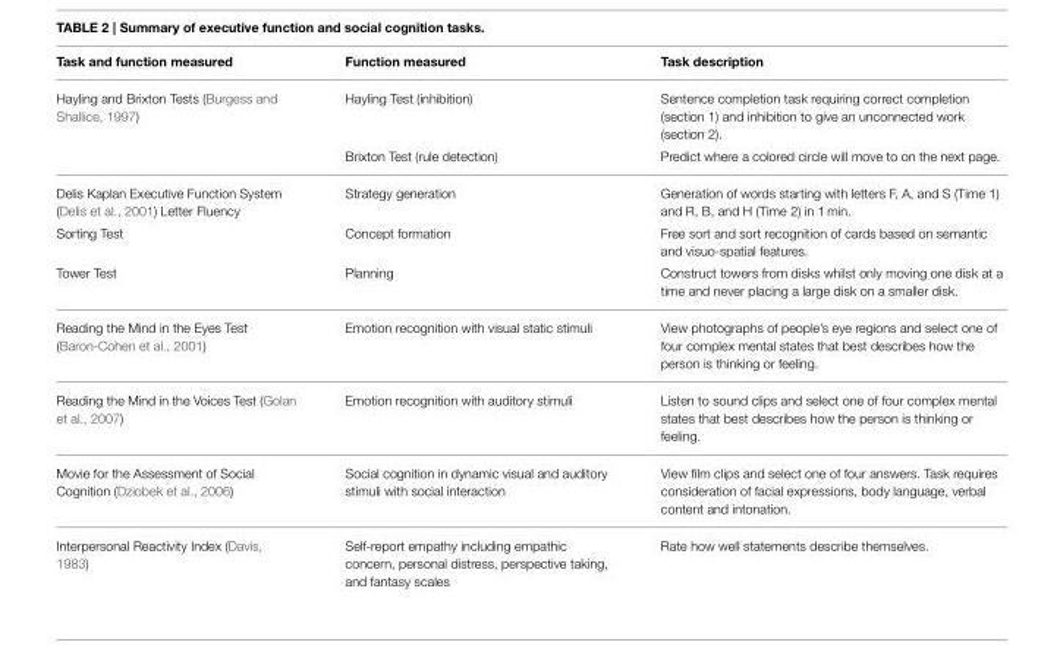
<table><thead><tr><td>Task and function measured</td><td>Function measured</td><td>Task description</td></tr></thead><tbody><tr><td rowspan="2">Hayling and Brixton Tests (Burgess and Shallice, 1997)</td><td>Hayling Test (inhibition)</td><td>Sentence completion task requiring correct completion (section 1) and inhibition to give an unconnected work (section 2).</td></tr><tr><td>Brixton Test (rule detection)</td><td>Predict where a colored circle will move to on the next page.</td></tr><tr><td>Delis Kaplan Executive Function System (Delis et al., 2001) Letter Fluency</td><td>Strategy generation</td><td>Generation of words starting with letters F, A, and S (Time 1) and R, B, and H (Time 2) in 1 min.</td></tr><tr><td>Sorting Test</td><td>Concept formation</td><td>Free sort and sort recognition of cards based on semantic and visuo-spatial features.</td></tr><tr><td>Tower Test</td><td>Planning</td><td>Construct towers from disks whilst only moving one disk at a time and never placing a large disk on a smaller disk.</td></tr><tr><td>Reading the Mind in the Eyes Test (Baron-Cohen et al., 2001)</td><td>Emotion recognition with visual static stimuli</td><td>View photographs of people’s eye regions and select one of four complex mental states that best describes how the person is thinking or feeling.</td></tr><tr><td>Reading the Mind in the Voices Test (Golan et al., 2007)</td><td>Emotion recognition with auditory stimuli</td><td>Listen to sound clips and select one of four complex mental states that best describes how the person is thinking or feeling.</td></tr><tr><td>Movie for the Assessment of Social Cognition (Dziobek et al., 2006)</td><td>Social cognition in dynamic visual and auditory stimuli with social interaction</td><td>View film clips and select one of four answers. Task requires consideration of facial expressions, body language, verbal content and intonation.</td></tr><tr><td>Interpersonal Reactivity Index (Davis, 1983)</td><td>Self-report empathy including empathic concern, personal distress, perspective taking, and fantasy scales</td><td>Rate how well statements describe themselves.</td></tr></tbody></table>